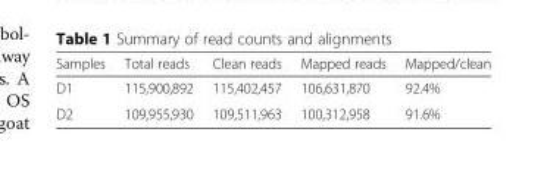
<table><thead><tr><td>Samples</td><td>Total reads</td><td>Clean reads</td><td>Mapped reads</td><td>Mapped/clean</td></tr></thead><tbody><tr><td>D1</td><td>115,900,892</td><td>115,402,457</td><td>106,631,870</td><td>92.4%</td></tr><tr><td>D2</td><td>109,955,930</td><td>109,511,963</td><td>100,312,958</td><td>91.6%</td></tr></tbody></table>